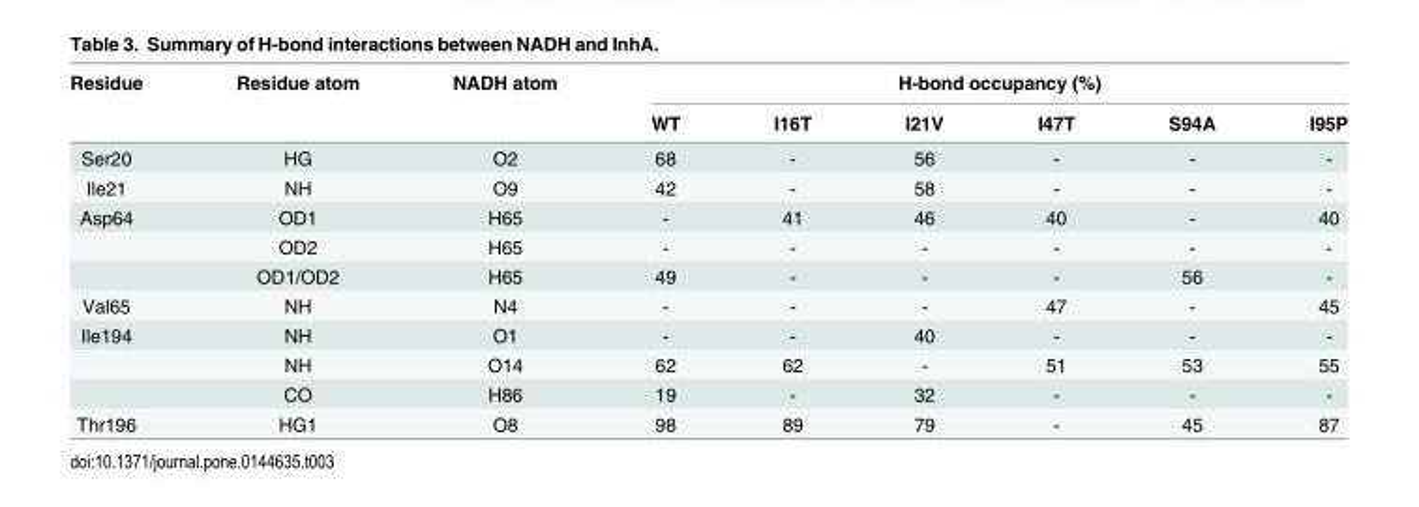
<table><thead><tr><td rowspan="2">Residue</td><td rowspan="2">Residue atom</td><td rowspan="2">NADH atom</td><td colspan="6">H-bond occupancy (%)</td></tr><tr><td>WT</td><td>I16T</td><td>I21V</td><td>I47T</td><td>S94A</td><td>I95P</td></tr></thead><tbody><tr><td>Ser20</td><td>HG</td><td>O2</td><td>68</td><td>-</td><td>56</td><td>-</td><td>-</td><td>-</td></tr><tr><td>Ile21</td><td>NH</td><td>O9</td><td>42</td><td>-</td><td>58</td><td>-</td><td>-</td><td>-</td></tr><tr><td rowspan="3">Asp64</td><td>OD1</td><td>H65</td><td>-</td><td>41</td><td>46</td><td>40</td><td>-</td><td>40</td></tr><tr><td>OD2</td><td>H65</td><td>-</td><td>-</td><td>-</td><td>-</td><td>-</td><td>-</td></tr><tr><td>OD1/OD2</td><td>H65</td><td>49</td><td>-</td><td>-</td><td>-</td><td>56</td><td>-</td></tr><tr><td>Val65</td><td>NH</td><td>N4</td><td>-</td><td>-</td><td>-</td><td>47</td><td>-</td><td>45</td></tr><tr><td rowspan="3">Ile194</td><td>NH</td><td>O1</td><td>-</td><td>-</td><td>40</td><td>-</td><td>-</td><td>-</td></tr><tr><td>NH</td><td>O14</td><td>62</td><td>62</td><td>-</td><td>51</td><td>53</td><td>55</td></tr><tr><td>CO</td><td>H86</td><td>19</td><td>-</td><td>32</td><td>-</td><td>-</td><td>-</td></tr><tr><td>Thr196</td><td>HG1</td><td>O8</td><td>98</td><td>89</td><td>79</td><td>-</td><td>45</td><td>87</td></tr></tbody></table>